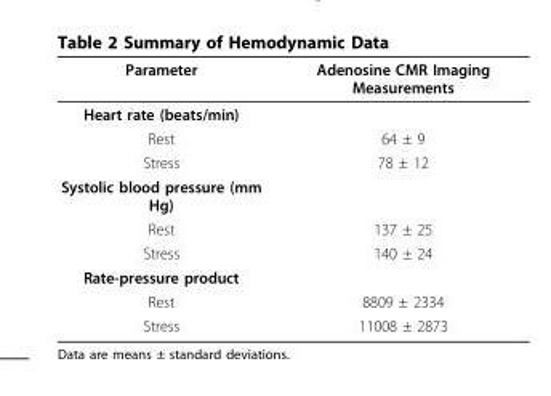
<table><thead><tr><td>Parameter</td><td>Adenosine CMR Imaging Measurements</td></tr></thead><tbody><tr><td colspan="2">Heart rate (beats/min)</td></tr><tr><td>Rest</td><td>64 ± 9</td></tr><tr><td>Stress</td><td>78 ± 12</td></tr><tr><td colspan="2">Systolic blood pressure (mm Hg)</td></tr><tr><td>Rest</td><td>137 ± 25</td></tr><tr><td>Stress</td><td>140 ± 24</td></tr><tr><td colspan="2">Rate-pressure product</td></tr><tr><td>Rest</td><td>8809 ± 2334</td></tr><tr><td>Stress</td><td>11008 ± 2873</td></tr></tbody></table>